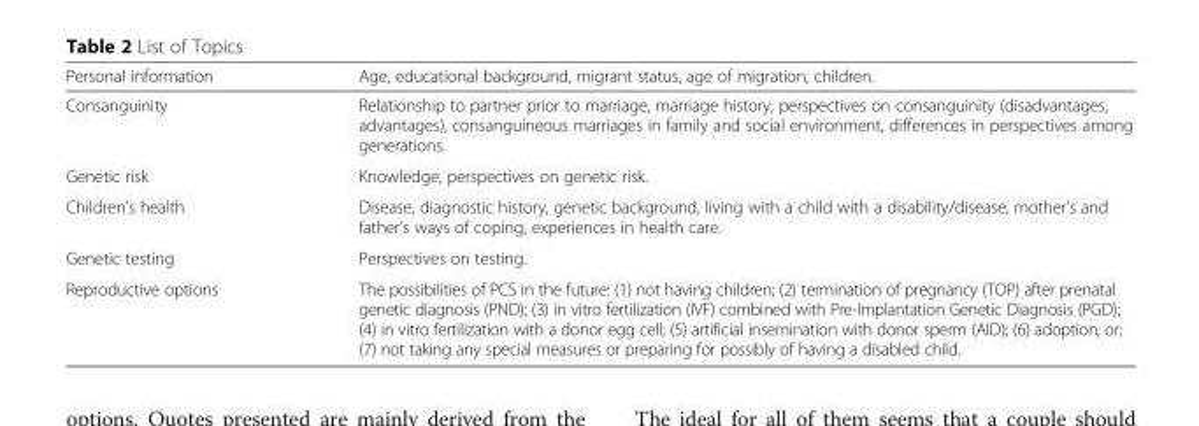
<table><thead><tr><td>Personal information</td><td>Age, educational background, migrant status, age of migration, children.</td></tr></thead><tbody><tr><td>Consanguinity</td><td>Relationship to partner prior to marriage, marriage history, perspectives on consanguinity (disadvantages, advantages), consanguineous marriages in family and social environment, differences in perspectives among generations.</td></tr><tr><td>Genetic risk</td><td>Knowledge, perspectives on genetic risk.</td></tr><tr><td>Children’s health</td><td>Disease, diagnostic history, genetic background, living with a child with a disability/disease, mother’s and father’s ways of coping, experiences in health care.</td></tr><tr><td>Genetic testing</td><td>Perspectives on testing.</td></tr><tr><td>Reproductive options</td><td>The possibilities of PCS in the future: (1) not having children; (2) termination of pregnancy (TOP) after prenatal genetic diagnosis (PND); (3) in vitro fertilization (IVF) combined with Pre-Implantation Genetic Diagnosis (PGD); (4) in vitro fertilization with a donor egg cell; (5) artificial insemination with donor sperm (AID); (6) adoption, or; (7) not taking any special measures or preparing for possibly of having a disabled child.</td></tr></tbody></table>